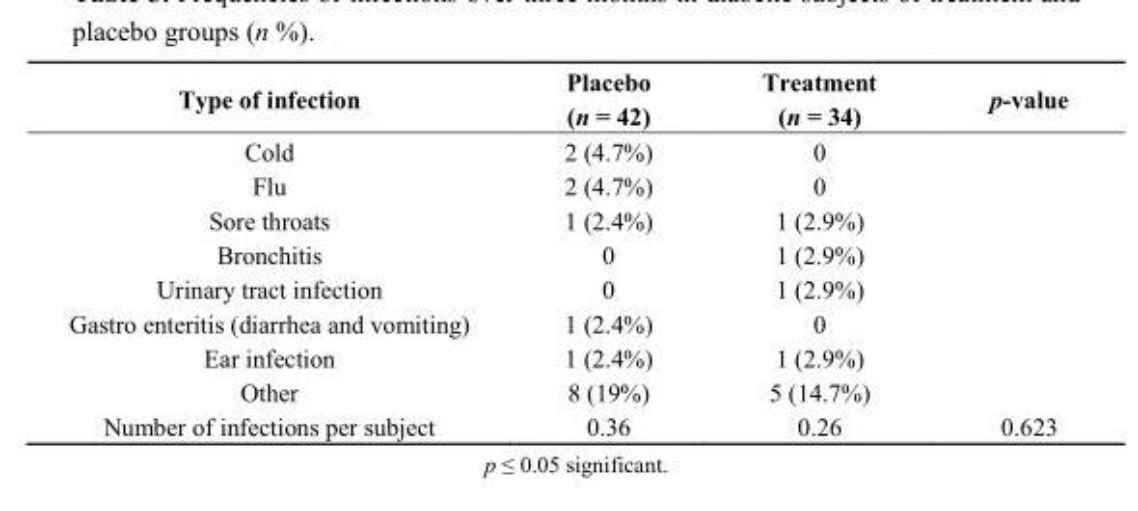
<table><thead><tr><td>Type of infection</td><td>Placebo (n = 42)</td><td>Treatment (n = 34)</td><td>p-value</td></tr></thead><tbody><tr><td>Cold</td><td>2 (4.7%)</td><td>0</td><td></td></tr><tr><td>Flu</td><td>2 (4.7%)</td><td>0</td><td></td></tr><tr><td>Sore throats</td><td>1 (2.4%)</td><td>1 (2.9%)</td><td></td></tr><tr><td>Bronchitis</td><td>0</td><td>1 (2.9%)</td><td></td></tr><tr><td>Urinary tract infection</td><td>0</td><td>1 (2.9%)</td><td></td></tr><tr><td>Gastro enteritis (diarrhea and vomiting)</td><td>1 (2.4%)</td><td>0</td><td></td></tr><tr><td>Ear infection</td><td>1 (2.4%)</td><td>1 (2.9%)</td><td></td></tr><tr><td>Other</td><td>8 (19%)</td><td>5 (14.7%)</td><td></td></tr><tr><td>Number of infections per subject</td><td>0.36</td><td>0.26</td><td>0.623</td></tr></tbody></table>